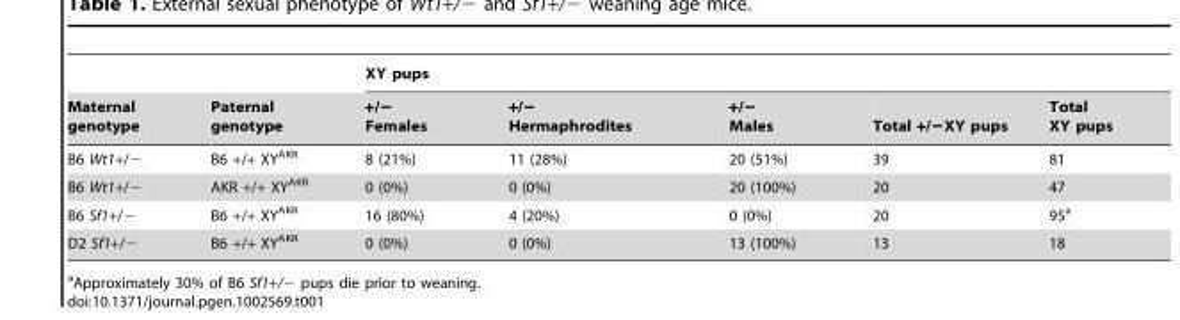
<table><thead><tr><td rowspan="2">Maternal genotype</td><td rowspan="2">Paternal genotype</td><td colspan="5">XY pups</td></tr><tr><td>+/− Females</td><td>+/− Hermaphrodites</td><td>+/− Males</td><td>Total +/−XY pups</td><td>Total XY pups</td></tr></thead><tbody><tr><td>B6 Wt1+/−</td><td>B6 +/+ XY<sup>AKR</sup></td><td>8 (21%)</td><td>11 (28%)</td><td>20 (51%)</td><td>39</td><td>81</td></tr><tr><td>B6 Wt1+/−</td><td>AKR +/+ XY<sup>AKR</sup></td><td>0 (0%)</td><td>0 (0%)</td><td>20 (100%)</td><td>20</td><td>47</td></tr><tr><td>B6 Sf1+/−</td><td>B6 +/+ XY<sup>AKR</sup></td><td>16 (80%)</td><td>4 (20%)</td><td>0 (0%)</td><td>20</td><td>95<sup>a</sup></td></tr><tr><td>D2 Sf1+/−</td><td>B6 +/+ XY<sup>AKR</sup></td><td>0 (0%)</td><td>0 (0%)</td><td>13 (100%)</td><td>13</td><td>18</td></tr></tbody></table>